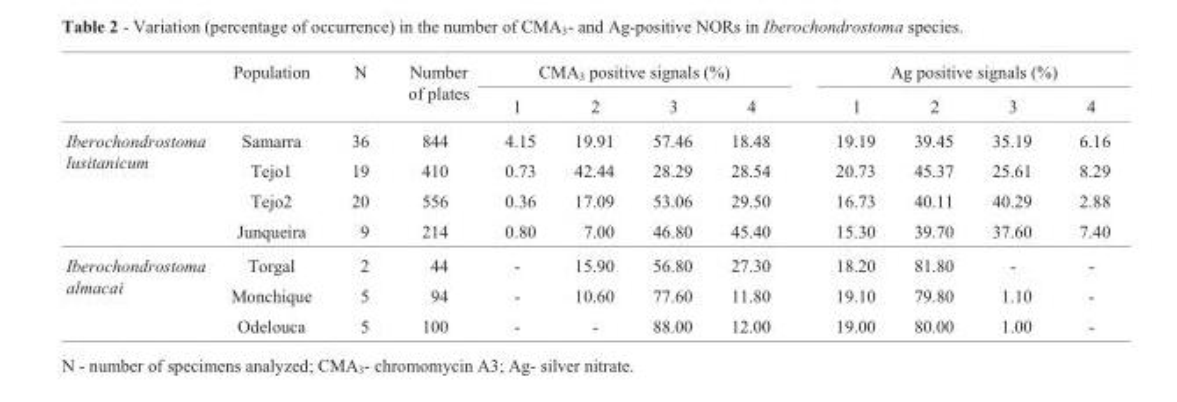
<table><thead><tr><td rowspan="2"></td><td rowspan="2">Population</td><td rowspan="2">N</td><td rowspan="2">Number of plates</td><td colspan="4">CMA<sub>3</sub> positive signals (%)</td><td colspan="4">Ag positive signals (%)</td></tr><tr><td>1</td><td>2</td><td>3</td><td>4</td><td>1</td><td>2</td><td>3</td><td>4</td></tr></thead><tbody><tr><td rowspan="4">Iberochondrostoma lusitanicum</td><td>Samarra</td><td>36</td><td>844</td><td>4.15</td><td>19.91</td><td>57.46</td><td>18.48</td><td>19.19</td><td>39.45</td><td>35.19</td><td>6.16</td></tr><tr><td>Tejo1</td><td>19</td><td>410</td><td>0.73</td><td>42.44</td><td>28.29</td><td>28.54</td><td>20.73</td><td>45.37</td><td>25.61</td><td>8.29</td></tr><tr><td>Tejo2</td><td>20</td><td>556</td><td>0.36</td><td>17.09</td><td>53.06</td><td>29.50</td><td>16.73</td><td>40.11</td><td>40.29</td><td>2.88</td></tr><tr><td>Junqueira</td><td>9</td><td>214</td><td>0.80</td><td>7.00</td><td>46.80</td><td>45.40</td><td>15.30</td><td>39.70</td><td>37.60</td><td>7.40</td></tr><tr><td rowspan="3">Iberochondrostoma almacai</td><td>Torgal</td><td>2</td><td>44</td><td>-</td><td>15.90</td><td>56.80</td><td>27.30</td><td>18.20</td><td>81.80</td><td>-</td><td>-</td></tr><tr><td>Monchique</td><td>5</td><td>94</td><td>-</td><td>10.60</td><td>77.60</td><td>11.80</td><td>19.10</td><td>79.80</td><td>1.10</td><td>-</td></tr><tr><td>Odelouca</td><td>5</td><td>100</td><td>-</td><td>-</td><td>88.00</td><td>12.00</td><td>19.00</td><td>80.00</td><td>1.00</td><td>-</td></tr></tbody></table>